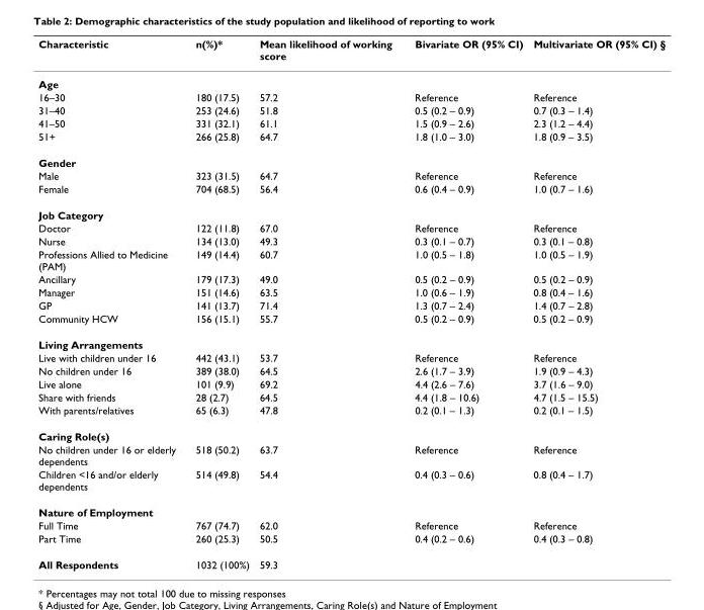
<table><thead><tr><td>Characteristic</td><td>n(%)*</td><td>Mean likelihood of working score</td><td>Bivariate OR (95% CI)</td><td>Multivariate OR (95% CI) §</td></tr></thead><tbody><tr><td colspan="5">Age</td></tr><tr><td>16–30</td><td>180 (17.5)</td><td>57.2</td><td>Reference</td><td>Reference</td></tr><tr><td>31–40</td><td>253 (24.6)</td><td>51.8</td><td>0.5 (0.2 – 0.9)</td><td>0.7 (0.3 – 1.4)</td></tr><tr><td>41–50</td><td>331 (32.1)</td><td>61.1</td><td>1.5 (0.9 – 2.6)</td><td>2.3 (1.2 – 4.4)</td></tr><tr><td>51+</td><td>266 (25.8)</td><td>64.7</td><td>1.8 (1.0 – 3.0)</td><td>1.8 (0.9 – 3.5)</td></tr><tr><td colspan="5">Gender</td></tr><tr><td>Male</td><td>323 (31.5)</td><td>64.7</td><td>Reference</td><td>Reference</td></tr><tr><td>Female</td><td>704 (68.5)</td><td>56.4</td><td>0.6 (0.4 – 0.9)</td><td>1.0 (0.7 – 1.6)</td></tr><tr><td colspan="5">Job Category</td></tr><tr><td>Doctor</td><td>122 (11.8)</td><td>67.0</td><td>Reference</td><td>Reference</td></tr><tr><td>Nurse</td><td>134 (13.0)</td><td>49.3</td><td>0.3 (0.1 – 0.7)</td><td>0.3 (0.1 – 0.8)</td></tr><tr><td>Professions Allied to Medicine (PAM)</td><td>149 (14.4)</td><td>60.7</td><td>1.0 (0.5 – 1.8)</td><td>1.0 (0.5 – 1.9)</td></tr><tr><td>Ancillary</td><td>179 (17.3)</td><td>49.0</td><td>0.5 (0.2 – 0.9)</td><td>0.5 (0.2 – 0.9)</td></tr><tr><td>Manager</td><td>151 (14.6)</td><td>63.5</td><td>1.0 (0.6 – 1.9)</td><td>0.8 (0.4 – 1.6)</td></tr><tr><td>GP</td><td>141 (13.7)</td><td>71.4</td><td>1.3 (0.7 – 2.4)</td><td>1.4 (0.7 – 2.8)</td></tr><tr><td>Community HCW</td><td>156 (15.1)</td><td>55.7</td><td>0.5 (0.2 – 0.9)</td><td>0.5 (0.2 – 0.9)</td></tr><tr><td colspan="5">Living Arrangements</td></tr><tr><td>Live with children under 16</td><td>442 (43.1)</td><td>53.7</td><td>Reference</td><td>Reference</td></tr><tr><td>No children under 16</td><td>389 (38.0)</td><td>64.5</td><td>2.6 (1.7 – 3.9)</td><td>1.9 (0.9 – 4.3)</td></tr><tr><td>Live alone</td><td>101 (9.9)</td><td>69.2</td><td>4.4 (2.6 – 7.6)</td><td>3.7 (1.6 – 9.0)</td></tr><tr><td>Share with friends</td><td>28 (2.7)</td><td>64.5</td><td>4.4 (1.8 – 10.6)</td><td>4.7 (1.5 – 15.5)</td></tr><tr><td>With parents/relatives</td><td>65 (6.3)</td><td>47.8</td><td>0.2 (0.1 – 1.3)</td><td>0.2 (0.1 – 1.5)</td></tr><tr><td colspan="5">Caring Role(s)</td></tr><tr><td>No children under 16 or elderly dependents</td><td>518 (50.2)</td><td>63.7</td><td>Reference</td><td>Reference</td></tr><tr><td>Children &lt;16 and/or elderly dependents</td><td>514 (49.8)</td><td>54.4</td><td>0.4 (0.3 – 0.6)</td><td>0.8 (0.4 – 1.7)</td></tr><tr><td colspan="5">Nature of Employment</td></tr><tr><td>Full Time</td><td>767 (74.7)</td><td>62.0</td><td>Reference</td><td>Reference</td></tr><tr><td>Part Time</td><td>260 (25.3)</td><td>50.5</td><td>0.4 (0.2 – 0.6)</td><td>0.4 (0.3 – 0.8)</td></tr><tr><td>All Respondents</td><td>1032 (100%)</td><td>59.3</td><td></td><td></td></tr></tbody></table>